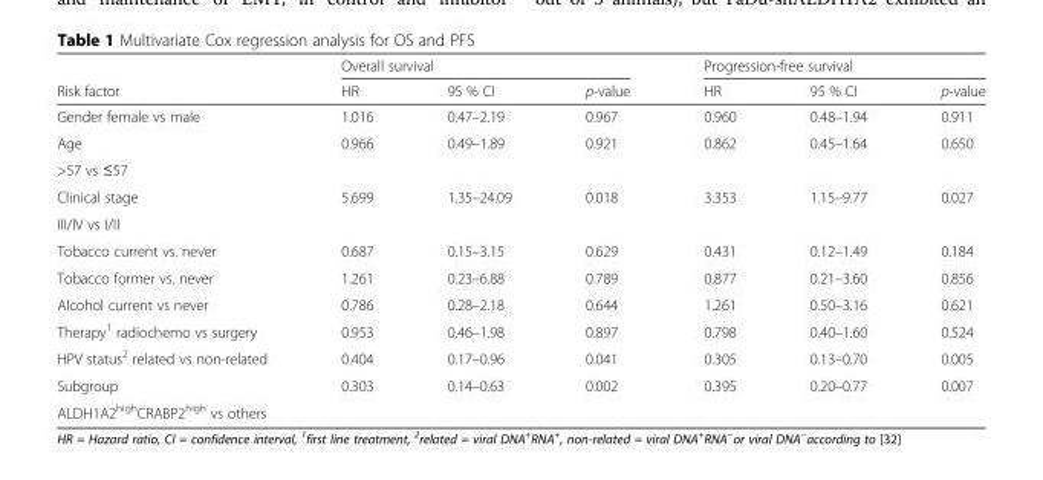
<table><thead><tr><td rowspan="2">Risk factor</td><td colspan="3">Overall survival</td><td colspan="3">Progression-free survival</td></tr><tr><td>HR</td><td>95 % CI</td><td>p-value</td><td>HR</td><td>95 % CI</td><td>p-value</td></tr></thead><tbody><tr><td>Gender female vs male</td><td>1.016</td><td>0.47–2.19</td><td>0.967</td><td>0.960</td><td>0.48–1.94</td><td>0.911</td></tr><tr><td>Age</td><td rowspan="2">0.966</td><td rowspan="2">0.49–1.89</td><td rowspan="2">0.921</td><td rowspan="2">0.862</td><td rowspan="2">0.45–1.64</td><td rowspan="2">0.650</td></tr><tr><td>&gt;57 vs ≤57</td></tr><tr><td>Clinical stage</td><td rowspan="2">5.699</td><td rowspan="2">1.35–24.09</td><td rowspan="2">0.018</td><td rowspan="2">3.353</td><td rowspan="2">1.15–9.77</td><td rowspan="2">0.027</td></tr><tr><td>III/IV vs I/II</td></tr><tr><td>Tobacco current vs. never</td><td>0.687</td><td>0.15–3.15</td><td>0.629</td><td>0.431</td><td>0.12–1.49</td><td>0.184</td></tr><tr><td>Tobacco former vs. never</td><td>1.261</td><td>0.23–6.88</td><td>0.789</td><td>0.877</td><td>0.21–3.60</td><td>0.856</td></tr><tr><td>Alcohol current vs never</td><td>0.786</td><td>0.28–2.18</td><td>0.644</td><td>1.261</td><td>0.50–3.16</td><td>0.621</td></tr><tr><td>Therapy<sup>1</sup> radiochemo vs surgery</td><td>0.953</td><td>0.46–1.98</td><td>0.897</td><td>0.798</td><td>0.40–1.60</td><td>0.524</td></tr><tr><td>HPV status<sup>2</sup> related vs non-related</td><td>0.404</td><td>0.17–0.96</td><td>0.041</td><td>0.305</td><td>0.13–0.70</td><td>0.005</td></tr><tr><td>Subgroup</td><td rowspan="2">0.303</td><td rowspan="2">0.14–0.63</td><td rowspan="2">0.002</td><td rowspan="2">0.395</td><td rowspan="2">0.20–0.77</td><td rowspan="2">0.007</td></tr><tr><td>ALDH1A2<sup>high</sup>CRABP2<sup>high</sup> vs others</td></tr></tbody></table>